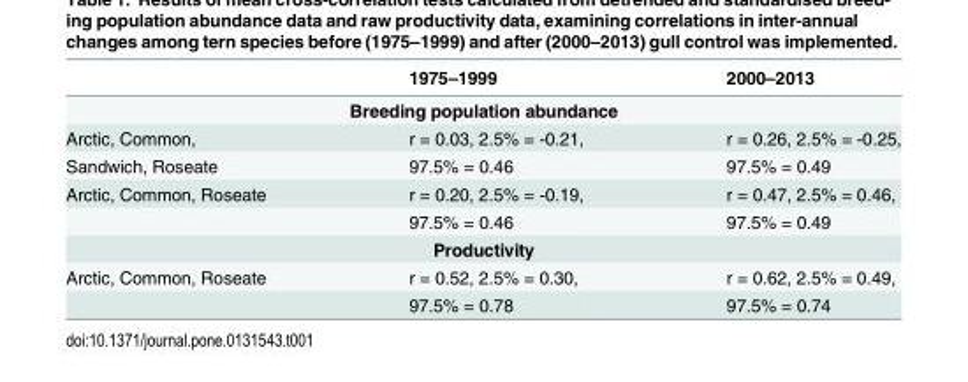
<table><thead><tr><td></td><td>1975–1999</td><td>2000–2013</td></tr></thead><tbody><tr><td colspan="3">Breeding population abundance</td></tr><tr><td>Arctic, Common,</td><td>r = 0.03, 2.5% = -0.21,</td><td>r = 0.26, 2.5% = -0.25,</td></tr><tr><td>Sandwich, Roseate</td><td>97.5% = 0.46</td><td>97.5% = 0.49</td></tr><tr><td rowspan="2">Arctic, Common, Roseate</td><td>r = 0.20, 2.5% = -0.19,</td><td>r = 0.47, 2.5% = 0.46,</td></tr><tr><td>97.5% = 0.46</td><td>97.5% = 0.49</td></tr><tr><td colspan="3">Productivity</td></tr><tr><td rowspan="2">Arctic, Common, Roseate</td><td>r = 0.52, 2.5% = 0.30,</td><td>r = 0.62, 2.5% = 0.49,</td></tr><tr><td>97.5% = 0.78</td><td>97.5% = 0.74</td></tr></tbody></table>